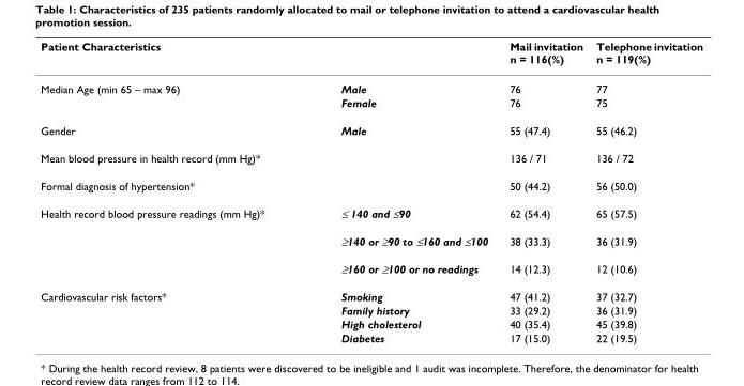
<table><thead><tr><td>Patient Characteristics</td><td></td><td>Mail invitation n = 116(%)</td><td>Telephone invitation n = 119(%)</td></tr></thead><tbody><tr><td rowspan="2">Median Age (min 65 – max 96)</td><td>Male</td><td>76</td><td>77</td></tr><tr><td>Female</td><td>76</td><td>75</td></tr><tr><td>Gender</td><td>Male</td><td>55 (47.4)</td><td>55 (46.2)</td></tr><tr><td>Mean blood pressure in health record (mm Hg)*</td><td></td><td>136 / 71</td><td>136 / 72</td></tr><tr><td>Formal diagnosis of hypertension*</td><td></td><td>50 (44.2)</td><td>56 (50.0)</td></tr><tr><td rowspan="3">Health record blood pressure readings (mm Hg)*</td><td>≤ 140 and ≤90</td><td>62 (54.4)</td><td>65 (57.5)</td></tr><tr><td>≥140 or ≥90 to ≤160 and ≤100</td><td>38 (33.3)</td><td>36 (31.9)</td></tr><tr><td>≥160 or ≥100 or no readings</td><td>14 (12.3)</td><td>12 (10.6)</td></tr><tr><td rowspan="4">Cardiovascular risk factors*</td><td>Smoking</td><td>47 (41.2)</td><td>37 (32.7)</td></tr><tr><td>Family history</td><td>33 (29.2)</td><td>36 (31.9)</td></tr><tr><td>High cholesterol</td><td>40 (35.4)</td><td>45 (39.8)</td></tr><tr><td>Diabetes</td><td>17 (15.0)</td><td>22 (19.5)</td></tr></tbody></table>